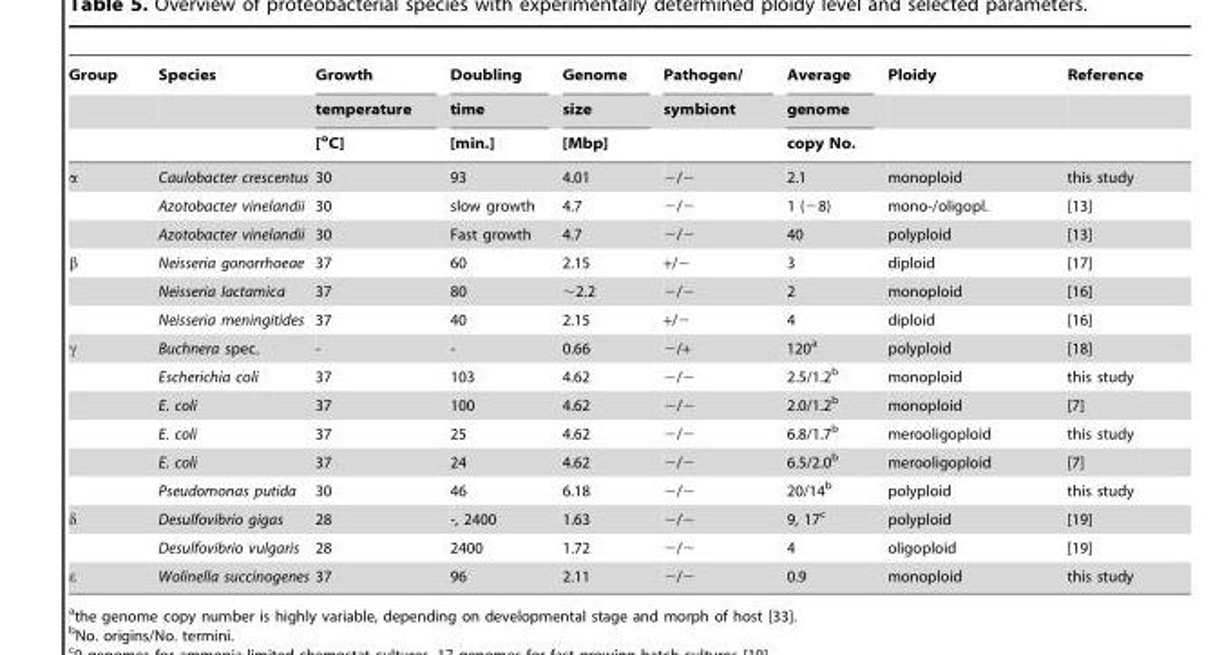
<table><thead><tr><td rowspan="3">Group</td><td rowspan="3">Species</td><td rowspan="3">Growth temperature [<sup>o</sup>C]</td><td rowspan="3">Doubling time [min.]</td><td rowspan="3">Genome size [Mbp]</td><td rowspan="3">Pathogen/ symbiont</td><td rowspan="3">Average genome copy No.</td><td rowspan="3">Ploidy</td><td rowspan="3">Reference</td></tr><tr></tr><tr></tr></thead><tbody><tr><td rowspan="3">α</td><td>Caulobacter crescentus</td><td>30</td><td>93</td><td>4.01</td><td>−/−</td><td>2.1</td><td>monoploid</td><td>this study</td></tr><tr><td>Azotobacter vinelandii</td><td>30</td><td>slow growth</td><td>4.7</td><td>−/−</td><td>1 (−8)</td><td>mono-/oligopl.</td><td>[13]</td></tr><tr><td>Azotobacter vinelandii</td><td>30</td><td>Fast growth</td><td>4.7</td><td>−/−</td><td>40</td><td>polyploid</td><td>[13]</td></tr><tr><td rowspan="3">β</td><td>Neisseria gonorrhoeae</td><td>37</td><td>60</td><td>2.15</td><td>+/−</td><td>3</td><td>diploid</td><td>[17]</td></tr><tr><td>Neisseria lactamica</td><td>37</td><td>80</td><td>∼2.2</td><td>−/−</td><td>2</td><td>monoploid</td><td>[16]</td></tr><tr><td>Neisseria meningitides</td><td>37</td><td>40</td><td>2.15</td><td>+/−</td><td>4</td><td>diploid</td><td>[16]</td></tr><tr><td rowspan="6">γ</td><td>Buchnera spec.</td><td>-</td><td>-</td><td>0.66</td><td>−/+</td><td>120<sup>a</sup></td><td>polyploid</td><td>[18]</td></tr><tr><td>Escherichia coli</td><td>37</td><td>103</td><td>4.62</td><td>−/−</td><td>2.5/1.2<sup>b</sup></td><td>monoploid</td><td>this study</td></tr><tr><td>E. coli</td><td>37</td><td>100</td><td>4.62</td><td>−/−</td><td>2.0/1.2<sup>b</sup></td><td>monoploid</td><td>[7]</td></tr><tr><td>E. coli</td><td>37</td><td>25</td><td>4.62</td><td>−/−</td><td>6.8/1.7<sup>b</sup></td><td>merooligoploid</td><td>this study</td></tr><tr><td>E. coli</td><td>37</td><td>24</td><td>4.62</td><td>−/−</td><td>6.5/2.0<sup>b</sup></td><td>merooligoploid</td><td>[7]</td></tr><tr><td>Pseudomonas putida</td><td>30</td><td>46</td><td>6.18</td><td>−/−</td><td>20/14<sup>b</sup></td><td>polyploid</td><td>this study</td></tr><tr><td rowspan="2">δ</td><td>Desulfovibrio gigas</td><td>28</td><td>-, 2400</td><td>1.63</td><td>−/−</td><td>9, 17<sup>c</sup></td><td>polyploid</td><td>[19]</td></tr><tr><td>Desulfovibrio vulgaris</td><td>28</td><td>2400</td><td>1.72</td><td>−/−</td><td>4</td><td>oligoploid</td><td>[19]</td></tr><tr><td>ε</td><td>Wolinella succinogenes</td><td>37</td><td>96</td><td>2.11</td><td>−/−</td><td>0.9</td><td>monoploid</td><td>this study</td></tr></tbody></table>